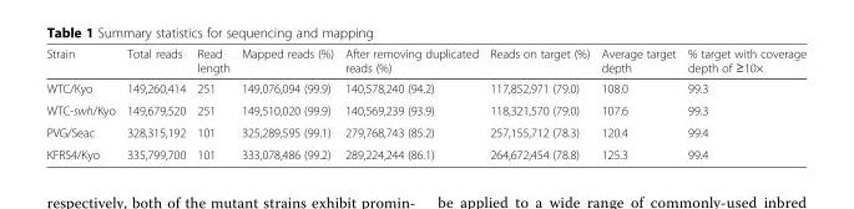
<table><thead><tr><td>Strain</td><td>Total reads</td><td>Read length</td><td>Mapped reads (%)</td><td>After removing duplicated reads (%)</td><td>Reads on target (%)</td><td>Average target depth</td><td>% target with coverage depth of ≥10×</td></tr></thead><tbody><tr><td>WTC/Kyo</td><td>149,260,414</td><td>251</td><td>149,076,094 (99.9)</td><td>140,578,240 (94.2)</td><td>117,852,971 (79.0)</td><td>108.0</td><td>99.3</td></tr><tr><td>WTC-swh/Kyo</td><td>149,679,520</td><td>251</td><td>149,510,020 (99.9)</td><td>140,569,239 (93.9)</td><td>118,321,570 (79.0)</td><td>107.6</td><td>99.3</td></tr><tr><td>PVG/Seac</td><td>328,315,192</td><td>101</td><td>325,289,595 (99.1)</td><td>279,768,743 (85.2)</td><td>257,155,712 (78.3)</td><td>120.4</td><td>99.4</td></tr><tr><td>KFRS4/Kyo</td><td>335,799,700</td><td>101</td><td>333,078,486 (99.2)</td><td>289,224,244 (86.1)</td><td>264,672,454 (78.8)</td><td>125.3</td><td>99.4</td></tr></tbody></table>